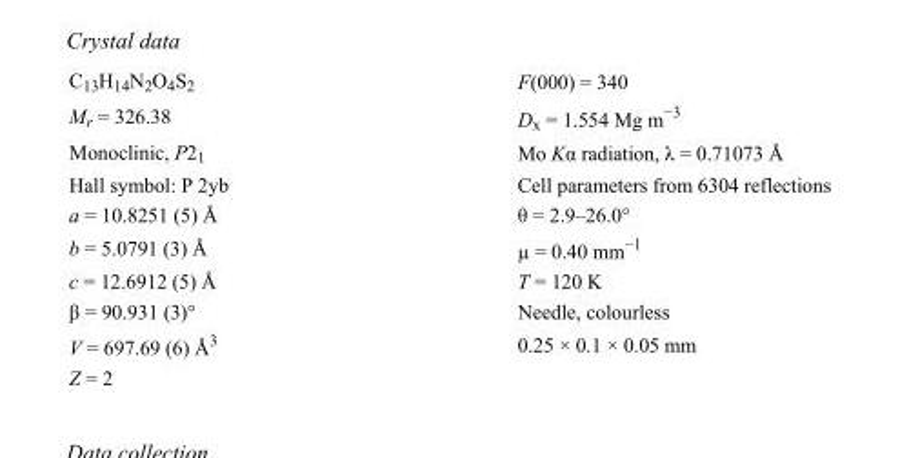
<table><tbody><tr><td>C<sub>13</sub>H<sub>14</sub>N<sub>2</sub>O<sub>4</sub>S<sub>2</sub></td><td>F(000) = 340</td></tr><tr><td>M<sub>r</sub> = 326.38</td><td>D<sub>x</sub> = 1.554 Mg m<sup>−3</sup></td></tr><tr><td>Monoclinic, P2<sub>1</sub></td><td>Mo Kα radiation, λ = 0.71073 Å</td></tr><tr><td>Hall symbol: P 2yb</td><td>Cell parameters from 6304 reflections</td></tr><tr><td>a = 10.8251 (5) Å</td><td>θ = 2.9–26.0°</td></tr><tr><td>b = 5.0791 (3) Å</td><td>µ = 0.40 mm<sup>−1</sup></td></tr><tr><td>c = 12.6912 (5) Å</td><td>T = 120 K</td></tr><tr><td>β = 90.931 (3)°</td><td>Needle, colourless</td></tr><tr><td>V = 697.69 (6) Å<sup>3</sup></td><td>0.25 × 0.1 × 0.05 mm</td></tr><tr><td>Z = 2</td><td></td></tr></tbody></table>